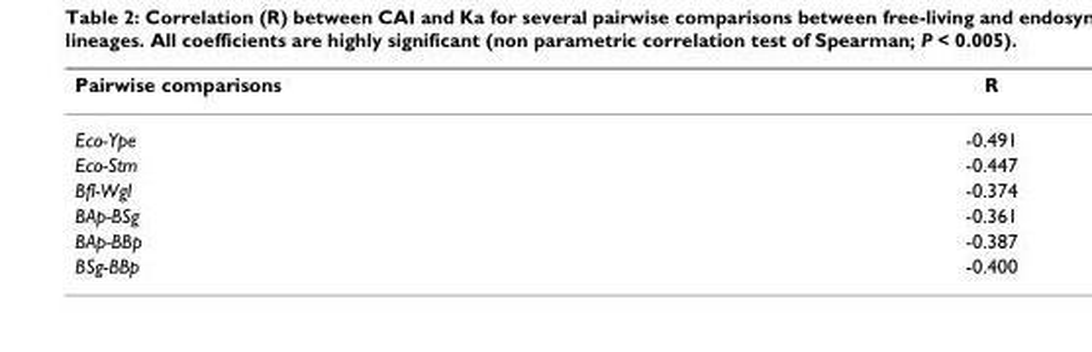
<table><thead><tr><td>Pairwise comparisons</td><td>R</td></tr></thead><tbody><tr><td>Eco-Ype</td><td>-0.491</td></tr><tr><td>Eco-Stm</td><td>-0.447</td></tr><tr><td>Bfl-Wgl</td><td>-0.374</td></tr><tr><td>BAp-BSg</td><td>-0.361</td></tr><tr><td>BAp-BBp</td><td>-0.387</td></tr><tr><td>BSg-BBp</td><td>-0.400</td></tr></tbody></table>